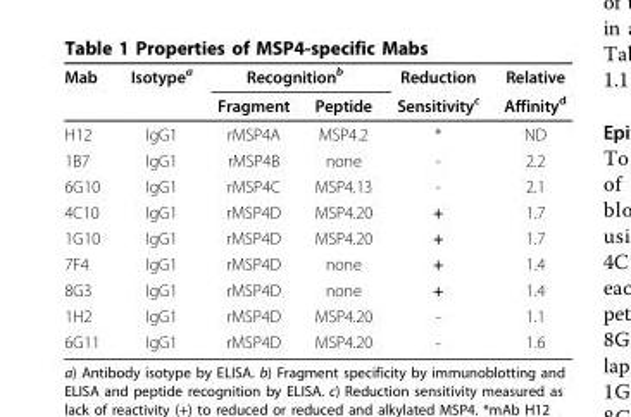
<table><thead><tr><td rowspan="2">Mab</td><td rowspan="2">Isotype<sup>a</sup></td><td colspan="2">Recognition<sup>b</sup></td><td rowspan="2">Reduction Sensitivity<sup>c</sup></td><td rowspan="2">Relative Affinity<sup>d</sup></td></tr><tr><td>Fragment</td><td>Peptide</td></tr></thead><tbody><tr><td>H12</td><td>IgG1</td><td>rMSP4A</td><td>MSP4.2</td><td>*</td><td>ND</td></tr><tr><td>1B7</td><td>IgG1</td><td>rMSP4B</td><td>none</td><td>-</td><td>2.2</td></tr><tr><td>6G10</td><td>IgG1</td><td>rMSP4C</td><td>MSP4.13</td><td>-</td><td>2.1</td></tr><tr><td>4C10</td><td>IgG1</td><td>rMSP4D</td><td>MSP4.20</td><td>+</td><td>1.7</td></tr><tr><td>1G10</td><td>IgG1</td><td>rMSP4D</td><td>MSP4.20</td><td>+</td><td>1.7</td></tr><tr><td>7F4</td><td>IgG1</td><td>rMSP4D</td><td>none</td><td>+</td><td>1.4</td></tr><tr><td>8G3</td><td>IgG1</td><td>rMSP4D</td><td>none</td><td>+</td><td>1.4</td></tr><tr><td>1H2</td><td>IgG1</td><td>rMSP4D</td><td>MSP4.20</td><td>-</td><td>1.1</td></tr><tr><td>6G11</td><td>IgG1</td><td>rMSP4D</td><td>MSP4.20</td><td>-</td><td>1.6</td></tr></tbody></table>